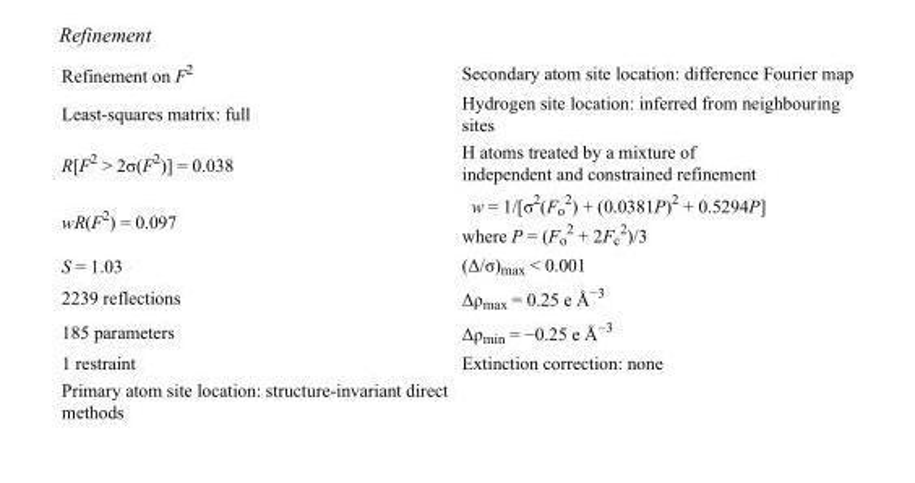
<table><tbody><tr><td>Refinement on F<sup>2</sup></td><td>Secondary atom site location: difference Fourier map</td></tr><tr><td>Least-squares matrix: full</td><td>Hydrogen site location: inferred from neighbouring sites</td></tr><tr><td>R[F<sup>2</sup> &gt; 2σ(F<sup>2</sup>)] = 0.038</td><td>H atoms treated by a mixture of independent and constrained refinement</td></tr><tr><td>wR(F<sup>2</sup>) = 0.097</td><td>w = 1/[σ<sup>2</sup>(F<sub>o</sub> <sup>2</sup>) + (0.0381P)<sup>2</sup> + 0.5294P] where P = (F<sub>o</sub> <sup>2</sup> + 2F<sub>c</sub> <sup>2</sup>)/3</td></tr><tr><td>S = 1.03</td><td>(Δ/σ)<sub>max</sub> &lt; 0.001</td></tr><tr><td>2239 reflections</td><td>Δρ<sub>max</sub> = 0.25 e Å<sup>−3</sup></td></tr><tr><td>185 parameters</td><td>Δρ<sub>min</sub> = −0.25 e Å<sup>−3</sup></td></tr><tr><td>1 restraint</td><td>Extinction correction: none</td></tr><tr><td>Primary atom site location: structure-invariant direct methods</td><td></td></tr></tbody></table>